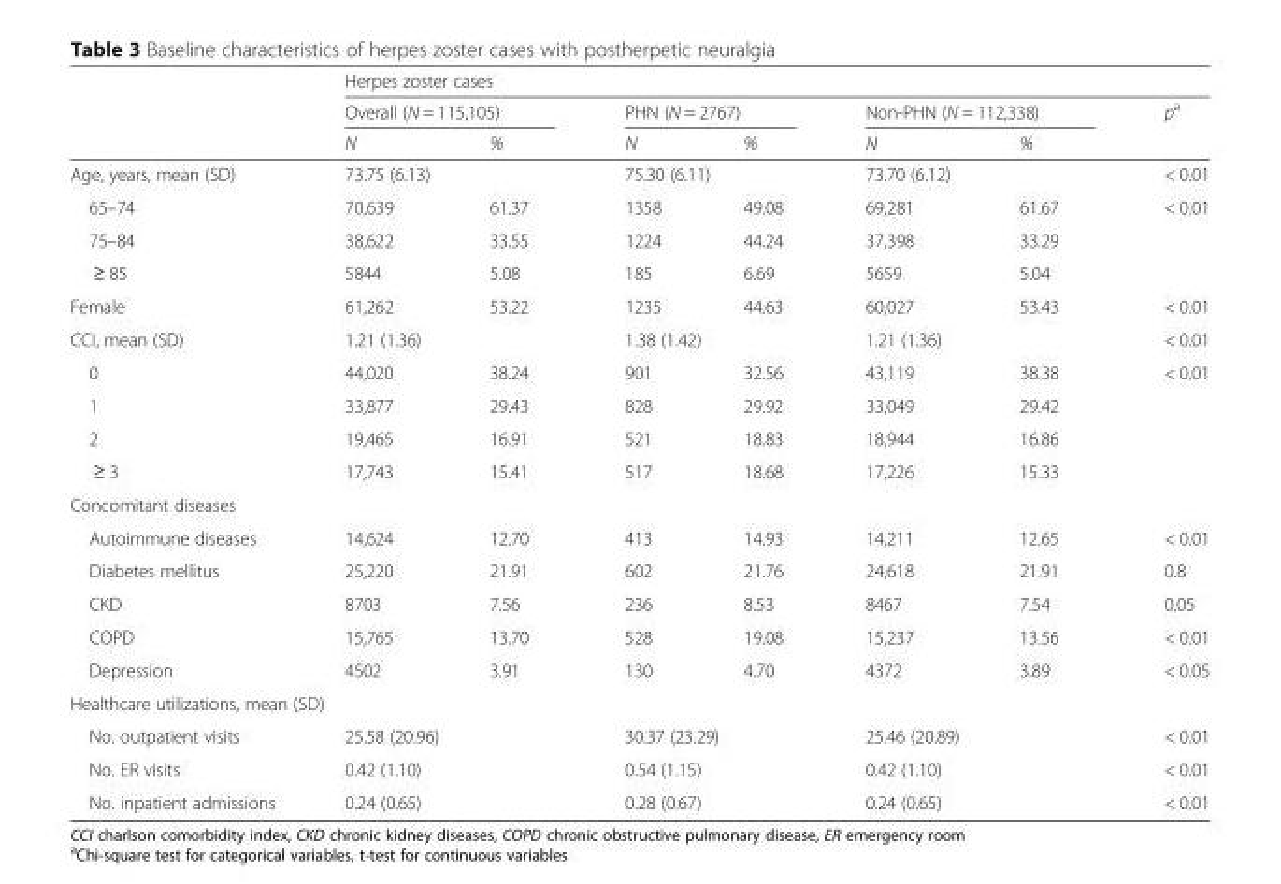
<table><thead><tr><td rowspan="3"></td><td colspan="7">Herpes zoster cases</td></tr><tr><td colspan="2">Overall (N = 115,105)</td><td colspan="2">PHN (N = 2767)</td><td colspan="2">Non-PHN (N = 112,338)</td><td rowspan="2">p<sup>a</sup></td></tr><tr><td>N</td><td>%</td><td>N</td><td>%</td><td>N</td><td>%</td></tr></thead><tbody><tr><td>Age, years, mean (SD)</td><td colspan="2">73.75 (6.13)</td><td colspan="2">75.30 (6.11)</td><td colspan="2">73.70 (6.12)</td><td>&lt; 0.01</td></tr><tr><td>65–74</td><td>70,639</td><td>61.37</td><td>1358</td><td>49.08</td><td>69,281</td><td>61.67</td><td rowspan="3">&lt; 0.01</td></tr><tr><td>75–84</td><td>38,622</td><td>33.55</td><td>1224</td><td>44.24</td><td>37,398</td><td>33.29</td></tr><tr><td>≥ 85</td><td>5844</td><td>5.08</td><td>185</td><td>6.69</td><td>5659</td><td>5.04</td></tr><tr><td>Female</td><td>61,262</td><td>53.22</td><td>1235</td><td>44.63</td><td>60,027</td><td>53.43</td><td>&lt; 0.01</td></tr><tr><td>CCI, mean (SD)</td><td colspan="2">1.21 (1.36)</td><td colspan="2">1.38 (1.42)</td><td colspan="2">1.21 (1.36)</td><td>&lt; 0.01</td></tr><tr><td>0</td><td>44,020</td><td>38.24</td><td>901</td><td>32.56</td><td>43,119</td><td>38.38</td><td rowspan="4">&lt; 0.01</td></tr><tr><td>1</td><td>33,877</td><td>29.43</td><td>828</td><td>29.92</td><td>33,049</td><td>29.42</td></tr><tr><td>2</td><td>19,465</td><td>16.91</td><td>521</td><td>18.83</td><td>18,944</td><td>16.86</td></tr><tr><td>≥ 3</td><td>17,743</td><td>15.41</td><td>517</td><td>18.68</td><td>17,226</td><td>15.33</td></tr><tr><td colspan="8">Concomitant diseases</td></tr><tr><td>Autoimmune diseases</td><td>14,624</td><td>12.70</td><td>413</td><td>14.93</td><td>14,211</td><td>12.65</td><td>&lt; 0.01</td></tr><tr><td>Diabetes mellitus</td><td>25,220</td><td>21.91</td><td>602</td><td>21.76</td><td>24,618</td><td>21.91</td><td>0.8</td></tr><tr><td>CKD</td><td>8703</td><td>7.56</td><td>236</td><td>8.53</td><td>8467</td><td>7.54</td><td>0.05</td></tr><tr><td>COPD</td><td>15,765</td><td>13.70</td><td>528</td><td>19.08</td><td>15,237</td><td>13.56</td><td>&lt; 0.01</td></tr><tr><td>Depression</td><td>4502</td><td>3.91</td><td>130</td><td>4.70</td><td>4372</td><td>3.89</td><td>&lt; 0.05</td></tr><tr><td colspan="8">Healthcare utilizations, mean (SD)</td></tr><tr><td>No. outpatient visits</td><td colspan="2">25.58 (20.96)</td><td colspan="2">30.37 (23.29)</td><td colspan="2">25.46 (20.89)</td><td>&lt; 0.01</td></tr><tr><td>No. ER visits</td><td colspan="2">0.42 (1.10)</td><td colspan="2">0.54 (1.15)</td><td colspan="2">0.42 (1.10)</td><td>&lt; 0.01</td></tr><tr><td>No. inpatient admissions</td><td colspan="2">0.24 (0.65)</td><td colspan="2">0.28 (0.67)</td><td colspan="2">0.24 (0.65)</td><td>&lt; 0.01</td></tr></tbody></table>